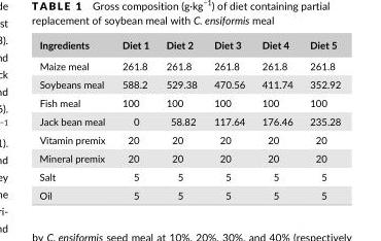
<table><thead><tr><td>Ingredients</td><td>Diet 1</td><td>Diet 2</td><td>Diet 3</td><td>Diet 4</td><td>Diet 5</td></tr></thead><tbody><tr><td>Maize meal</td><td>261.8</td><td>261.8</td><td>261.8</td><td>261.8</td><td>261.8</td></tr><tr><td>Soybeans meal</td><td>588.2</td><td>529.38</td><td>470.56</td><td>411.74</td><td>352.92</td></tr><tr><td>Fish meal</td><td>100</td><td>100</td><td>100</td><td>100</td><td>100</td></tr><tr><td>Jack bean meal</td><td>0</td><td>58.82</td><td>117.64</td><td>176.46</td><td>235.28</td></tr><tr><td>Vitamin premix</td><td>20</td><td>20</td><td>20</td><td>20</td><td>20</td></tr><tr><td>Mineral premix</td><td>20</td><td>20</td><td>20</td><td>20</td><td>20</td></tr><tr><td>Salt</td><td>5</td><td>5</td><td>5</td><td>5</td><td>5</td></tr><tr><td>Oil</td><td>5</td><td>5</td><td>5</td><td>5</td><td>5</td></tr></tbody></table>